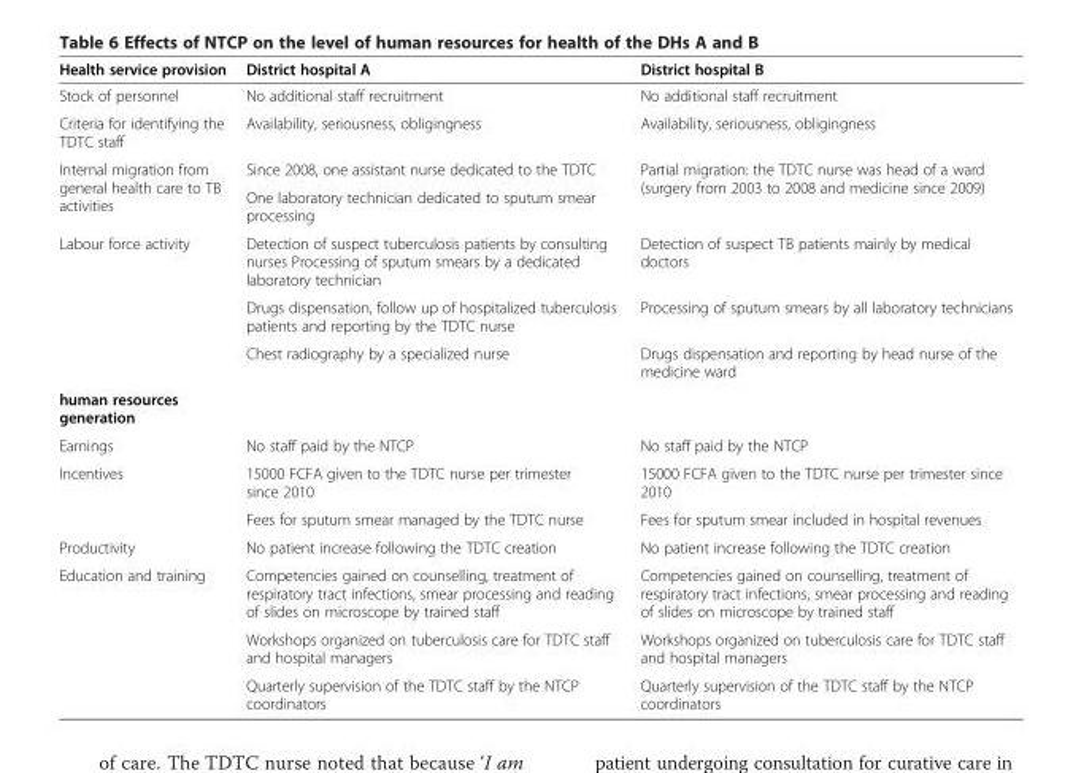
<table><thead><tr><td>Health service provision</td><td>District hospital A</td><td>District hospital B</td></tr></thead><tbody><tr><td>Stock of personnel</td><td>No additional staff recruitment</td><td>No additional staff recruitment</td></tr><tr><td>Criteria for identifying the TDTC staff</td><td>Availability, seriousness, obligingness</td><td>Availability, seriousness, obligingness</td></tr><tr><td rowspan="2">Internal migration from general health care to TB activities</td><td>Since 2008, one assistant nurse dedicated to the TDTC</td><td rowspan="2">Partial migration: the TDTC nurse was head of a ward (surgery from 2003 to 2008 and medicine since 2009)</td></tr><tr><td>One laboratory technician dedicated to sputum smear processing</td></tr><tr><td rowspan="3">Labour force activity</td><td>Detection of suspect tuberculosis patients by consulting nurses Processing of sputum smears by a dedicated laboratory technician</td><td>Detection of suspect TB patients mainly by medical doctors</td></tr><tr><td>Drugs dispensation, follow up of hospitalized tuberculosis patients and reporting by the TDTC nurse</td><td>Processing of sputum smears by all laboratory technicians</td></tr><tr><td>Chest radiography by a specialized nurse</td><td>Drugs dispensation and reporting by head nurse of the medicine ward</td></tr><tr><td colspan="3">human resources generation</td></tr><tr><td>Earnings</td><td>No staff paid by the NTCP</td><td>No staff paid by the NTCP</td></tr><tr><td rowspan="2">Incentives</td><td>15000 FCFA given to the TDTC nurse per trimester since 2010</td><td>15000 FCFA given to the TDTC nurse per trimester since 2010</td></tr><tr><td>Fees for sputum smear managed by the TDTC nurse</td><td>Fees for sputum smear included in hospital revenues</td></tr><tr><td>Productivity</td><td>No patient increase following the TDTC creation</td><td>No patient increase following the TDTC creation</td></tr><tr><td rowspan="3">Education and training</td><td>Competencies gained on counselling, treatment of respiratory tract infections, smear processing and reading of slides on microscope by trained staff</td><td>Competencies gained on counselling, treatment of respiratory tract infections, smear processing and reading of slides on microscope by trained staff</td></tr><tr><td>Workshops organized on tuberculosis care for TDTC staff and hospital managers</td><td>Workshops organized on tuberculosis care for TDTC staff and hospital managers</td></tr><tr><td>Quarterly supervision of the TDTC staff by the NTCP coordinators</td><td>Quarterly supervision of the TDTC staff by the NTCP coordinators</td></tr></tbody></table>